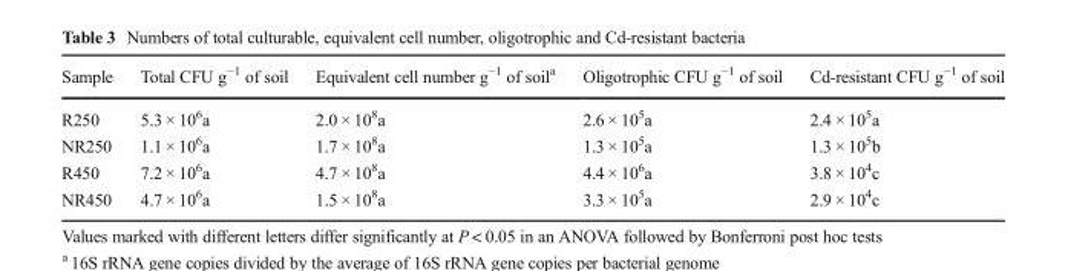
<table><thead><tr><td>Sample</td><td>Total CFU g<sup>−1</sup> of soil</td><td>Equivalent cell number g<sup>−1</sup> of soil<sup>a</sup></td><td>Oligotrophic CFU g<sup>−1</sup> of soil</td><td>Cd-resistant CFU g<sup>−1</sup> of soil</td></tr></thead><tbody><tr><td>R250</td><td>5.3 × 10<sup>6</sup>a</td><td>2.0 × 10<sup>8</sup>a</td><td>2.6 × 10<sup>5</sup>a</td><td>2.4 × 10<sup>5</sup>a</td></tr><tr><td>NR250</td><td>1.1 × 10<sup>6</sup>a</td><td>1.7 × 10<sup>8</sup>a</td><td>1.3 × 10<sup>5</sup>a</td><td>1.3 × 10<sup>5</sup>b</td></tr><tr><td>R450</td><td>7.2 × 10<sup>6</sup>a</td><td>4.7 × 10<sup>8</sup>a</td><td>4.4 × 10<sup>6</sup>a</td><td>3.8 × 10<sup>4</sup>c</td></tr><tr><td>NR450</td><td>4.7 × 10<sup>6</sup>a</td><td>1.5 × 10<sup>8</sup>a</td><td>3.3 × 10<sup>5</sup>a</td><td>2.9 × 10<sup>4</sup>c</td></tr></tbody></table>